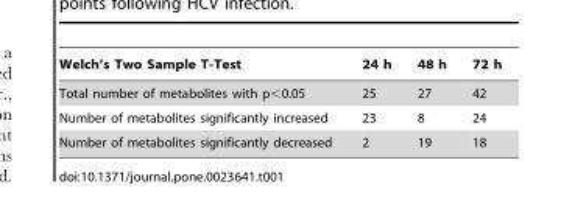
<table><thead><tr><td>Welch’s Two Sample T-Test</td><td>24 h</td><td>48 h</td><td>72 h</td></tr></thead><tbody><tr><td>Total number of metabolites with p&lt;0.05</td><td>25</td><td>27</td><td>42</td></tr><tr><td>Number of metabolites significantly increased</td><td>23</td><td>8</td><td>24</td></tr><tr><td>Number of metabolites significantly decreased</td><td>2</td><td>19</td><td>18</td></tr></tbody></table>